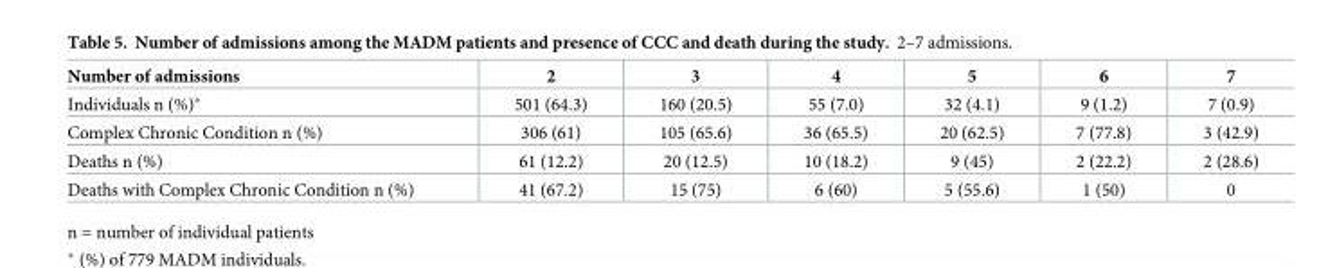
<table><thead><tr><td>Number of admissions</td><td>2</td><td>3</td><td>4</td><td>5</td><td>6</td><td>7</td></tr></thead><tbody><tr><td>Individuals n (%)*</td><td>501 (64.3)</td><td>160 (20.5)</td><td>55 (7.0)</td><td>32 (4.1)</td><td>9 (1.2)</td><td>7 (0.9)</td></tr><tr><td>Complex Chronic Condition n (%)</td><td>306 (61)</td><td>105 (65.6)</td><td>36 (65.5)</td><td>20 (62.5)</td><td>7 (77.8)</td><td>3 (42.9)</td></tr><tr><td>Deaths n (%)</td><td>61 (12.2)</td><td>20 (12.5)</td><td>10 (18.2)</td><td>9 (45)</td><td>2 (22.2)</td><td>2 (28.6)</td></tr><tr><td>Deaths with Complex Chronic Condition n (%)</td><td>41 (67.2)</td><td>15 (75)</td><td>6 (60)</td><td>5 (55.6)</td><td>1 (50)</td><td>0</td></tr></tbody></table>